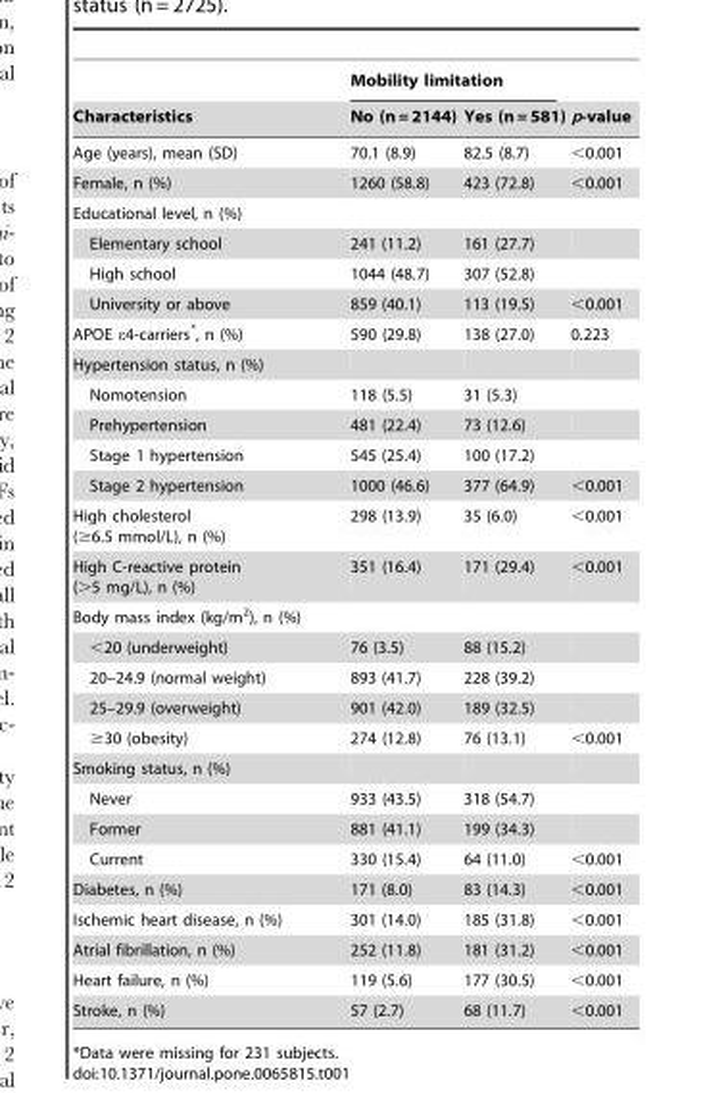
<table><thead><tr><td rowspan="2">Characteristics</td><td colspan="2">Mobility limitation</td><td rowspan="2">p-value</td></tr><tr><td>No (n = 2144)</td><td>Yes (n = 581)</td></tr></thead><tbody><tr><td>Age (years), mean (SD)</td><td>70.1 (8.9)</td><td>82.5 (8.7)</td><td>&lt;0.001</td></tr><tr><td>Female, n (%)</td><td>1260 (58.8)</td><td>423 (72.8)</td><td>&lt;0.001</td></tr><tr><td colspan="4">Educational level, n (%)</td></tr><tr><td>Elementary school</td><td>241 (11.2)</td><td>161 (27.7)</td><td></td></tr><tr><td>High school</td><td>1044 (48.7)</td><td>307 (52.8)</td><td></td></tr><tr><td>University or above</td><td>859 (40.1)</td><td>113 (19.5)</td><td>&lt;0.001</td></tr><tr><td>APOE ε4-carriers*, n (%)</td><td>590 (29.8)</td><td>138 (27.0)</td><td>0.223</td></tr><tr><td colspan="4">Hypertension status, n (%)</td></tr><tr><td>Nomotension</td><td>118 (5.5)</td><td>31 (5.3)</td><td></td></tr><tr><td>Prehypertension</td><td>481 (22.4)</td><td>73 (12.6)</td><td></td></tr><tr><td>Stage 1 hypertension</td><td>545 (25.4)</td><td>100 (17.2)</td><td></td></tr><tr><td>Stage 2 hypertension</td><td>1000 (46.6)</td><td>377 (64.9)</td><td>&lt;0.001</td></tr><tr><td>High cholesterol (≥6.5 mmol/L), n (%)</td><td>298 (13.9)</td><td>35 (6.0)</td><td>&lt;0.001</td></tr><tr><td>High C-reactive protein (&gt;5 mg/L), n (%)</td><td>351 (16.4)</td><td>171 (29.4)</td><td>&lt;0.001</td></tr><tr><td colspan="4">Body mass index (kg/m<sup>2</sup>), n (%)</td></tr><tr><td>&lt;20 (underweight)</td><td>76 (3.5)</td><td>88 (15.2)</td><td></td></tr><tr><td>20–24.9 (normal weight)</td><td>893 (41.7)</td><td>228 (39.2)</td><td></td></tr><tr><td>25–29.9 (overweight)</td><td>901 (42.0)</td><td>189 (32.5)</td><td></td></tr><tr><td>≥30 (obesity)</td><td>274 (12.8)</td><td>76 (13.1)</td><td>&lt;0.001</td></tr><tr><td colspan="4">Smoking status, n (%)</td></tr><tr><td>Never</td><td>933 (43.5)</td><td>318 (54.7)</td><td></td></tr><tr><td>Former</td><td>881 (41.1)</td><td>199 (34.3)</td><td></td></tr><tr><td>Current</td><td>330 (15.4)</td><td>64 (11.0)</td><td>&lt;0.001</td></tr><tr><td>Diabetes, n (%)</td><td>171 (8.0)</td><td>83 (14.3)</td><td>&lt;0.001</td></tr><tr><td>Ischemic heart disease, n (%)</td><td>301 (14.0)</td><td>185 (31.8)</td><td>&lt;0.001</td></tr><tr><td>Atrial fibrillation, n (%)</td><td>252 (11.8)</td><td>181 (31.2)</td><td>&lt;0.001</td></tr><tr><td>Heart failure, n (%)</td><td>119 (5.6)</td><td>177 (30.5)</td><td>&lt;0.001</td></tr><tr><td>Stroke, n (%)</td><td>57 (2.7)</td><td>68 (11.7)</td><td>&lt;0.001</td></tr></tbody></table>